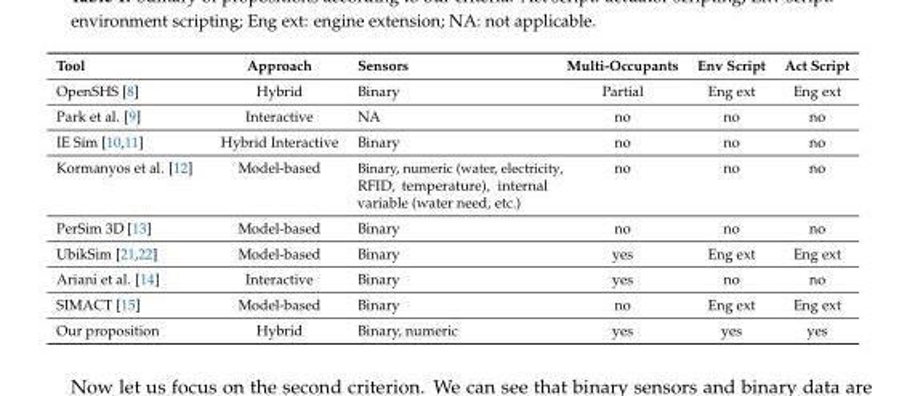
<table><thead><tr><td>Tool</td><td>Approach</td><td>Sensors</td><td>Multi-Occupants</td><td>Env Script</td><td>Act Script</td></tr></thead><tbody><tr><td>OpenSHS [8]</td><td>Hybrid</td><td>Binary</td><td>Partial</td><td>Eng ext</td><td>Eng ext</td></tr><tr><td>Park et al. [9]</td><td>Interactive</td><td>NA</td><td>no</td><td>no</td><td>no</td></tr><tr><td>IE Sim [10,11]</td><td>Hybrid Interactive</td><td>Binary</td><td>no</td><td>no</td><td>no</td></tr><tr><td>Kormanyos et al. [12]</td><td>Model-based</td><td>Binary, numeric (water, electricity, RFID, temperature), internal variable (water need, etc.)</td><td>no</td><td>no</td><td>no</td></tr><tr><td>PerSim 3D [13]</td><td>Model-based</td><td>Binary</td><td>no</td><td>no</td><td>no</td></tr><tr><td>UbikSim [21,22]</td><td>Model-based</td><td>Binary</td><td>yes</td><td>Eng ext</td><td>Eng ext</td></tr><tr><td>Ariani et al. [14]</td><td>Interactive</td><td>Binary</td><td>yes</td><td>no</td><td>no</td></tr><tr><td>SIMACT [15]</td><td>Model-based</td><td>Binary</td><td>no</td><td>Eng ext</td><td>Eng ext</td></tr><tr><td>Our proposition</td><td>Hybrid</td><td>Binary, numeric</td><td>yes</td><td>yes</td><td>yes</td></tr></tbody></table>